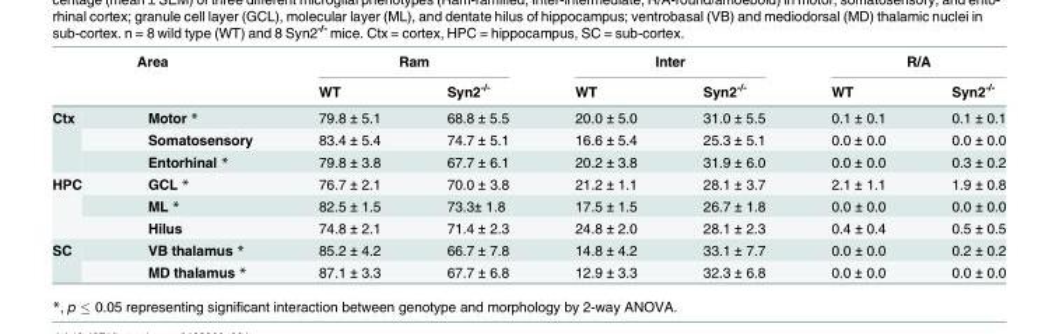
<table><thead><tr><td colspan="2">Area</td><td colspan="2">Ram</td><td colspan="2">Inter</td><td colspan="2">R/A</td></tr><tr><td></td><td></td><td>WT</td><td>Syn2<sup>-/-</sup></td><td>WT</td><td>Syn2<sup>-/-</sup></td><td>WT</td><td>Syn2<sup>-/-</sup></td></tr></thead><tbody><tr><td rowspan="3">Ctx</td><td>Motor *</td><td>79.8 ± 5.1</td><td>68.8 ± 5.5</td><td>20.0 ± 5.0</td><td>31.0 ± 5.5</td><td>0.1 ± 0.1</td><td>0.1 ± 0.1</td></tr><tr><td>Somatosensory</td><td>83.4 ± 5.4</td><td>74.7 ± 5.1</td><td>16.6 ± 5.4</td><td>25.3 ± 5.1</td><td>0.0 ± 0.0</td><td>0.0 ± 0.0</td></tr><tr><td>Entorhinal *</td><td>79.8 ± 3.8</td><td>67.7 ± 6.1</td><td>20.2 ± 3.8</td><td>31.9 ± 6.0</td><td>0.0 ± 0.0</td><td>0.3 ± 0.2</td></tr><tr><td rowspan="3">HPC</td><td>GCL *</td><td>76.7 ± 2.1</td><td>70.0 ± 3.8</td><td>21.2 ± 1.1</td><td>28.1 ± 3.7</td><td>2.1 ± 1.1</td><td>1.9 ± 0.8</td></tr><tr><td>ML *</td><td>82.5 ± 1.5</td><td>73.3± 1.8</td><td>17.5 ± 1.5</td><td>26.7 ± 1.8</td><td>0.0 ± 0.0</td><td>0.0 ± 0.0</td></tr><tr><td>Hilus</td><td>74.8 ± 2.1</td><td>71.4 ± 2.3</td><td>24.8 ± 2.0</td><td>28.1 ± 2.3</td><td>0.4 ± 0.4</td><td>0.5 ± 0.5</td></tr><tr><td rowspan="2">SC</td><td>VB thalamus *</td><td>85.2 ± 4.2</td><td>66.7 ± 7.8</td><td>14.8 ± 4.2</td><td>33.1 ± 7.7</td><td>0.0 ± 0.0</td><td>0.2 ± 0.2</td></tr><tr><td>MD thalamus *</td><td>87.1 ± 3.3</td><td>67.7 ± 6.8</td><td>12.9 ± 3.3</td><td>32.3 ± 6.8</td><td>0.0 ± 0.0</td><td>0.0 ± 0.0</td></tr></tbody></table>